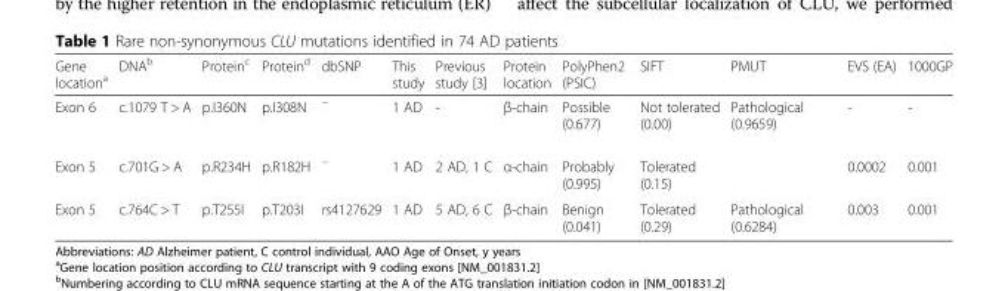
<table><thead><tr><td>Gene location<sup>a</sup></td><td>DNA<sup>b</sup></td><td>Protein<sup>c</sup></td><td>Protein<sup>d</sup></td><td>dbSNP</td><td>This study</td><td>Previous study [3]</td><td>Protein location</td><td>PolyPhen2 (PSIC)</td><td>SIFT</td><td>PMUT</td><td>EVS (EA)</td><td>1000GP</td></tr></thead><tbody><tr><td>Exon 6</td><td>c.1079 T &gt; A</td><td>p.I360N</td><td>p.I308N</td><td><sup>−</sup></td><td>1 AD</td><td>-</td><td>β-chain</td><td>Possible (0.677)</td><td>Not tolerated (0.00)</td><td>Pathological (0.9659)</td><td>-</td><td>-</td></tr><tr><td>Exon 5</td><td>c.701G &gt; A</td><td>p.R234H</td><td>p.R182H</td><td><sup>−</sup></td><td>1 AD</td><td>2 AD, 1 C</td><td>α-chain</td><td>Probably (0.995)</td><td>Tolerated (0.15)</td><td></td><td>0.0002</td><td>0.001</td></tr><tr><td>Exon 5</td><td>c.764C &gt; T</td><td>p.T255I</td><td>p.T203I</td><td>rs4127629</td><td>1 AD</td><td>5 AD, 6 C</td><td>β-chain</td><td>Benign (0.041)</td><td>Tolerated (0.29)</td><td>Pathological (0.6284)</td><td>0.003</td><td>0.001</td></tr></tbody></table>